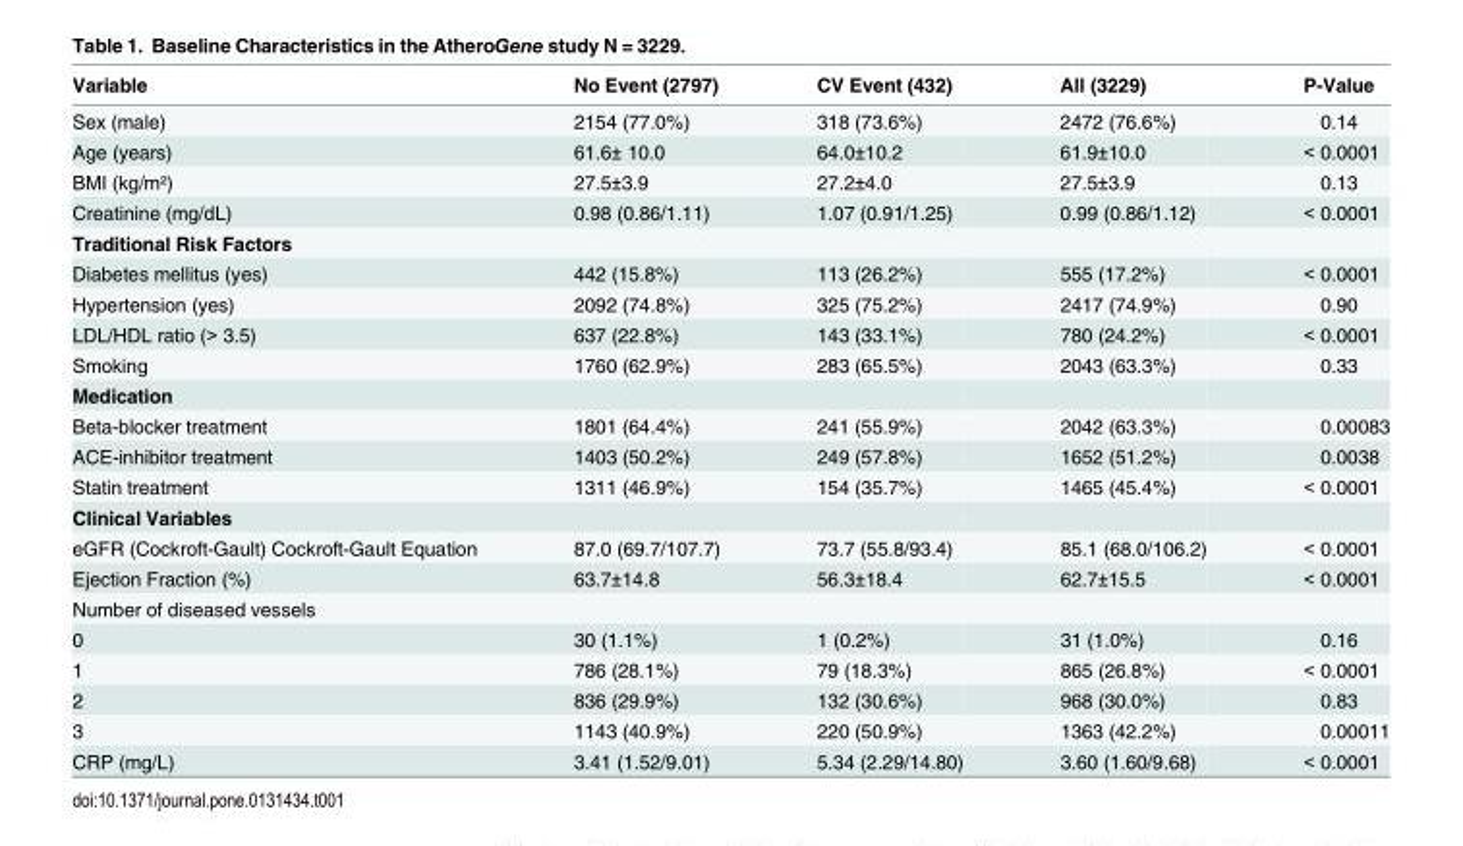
<table><thead><tr><td>Variable</td><td>No Event (2797)</td><td>CV Event (432)</td><td>All (3229)</td><td>P-Value</td></tr></thead><tbody><tr><td>Sex (male)</td><td>2154 (77.0%)</td><td>318 (73.6%)</td><td>2472 (76.6%)</td><td>0.14</td></tr><tr><td>Age (years)</td><td>61.6± 10.0</td><td>64.0±10.2</td><td>61.9±10.0</td><td>&lt; 0.0001</td></tr><tr><td>BMI (kg/m²)</td><td>27.5±3.9</td><td>27.2±4.0</td><td>27.5±3.9</td><td>0.13</td></tr><tr><td>Creatinine (mg/dL)</td><td>0.98 (0.86/1.11)</td><td>1.07 (0.91/1.25)</td><td>0.99 (0.86/1.12)</td><td>&lt; 0.0001</td></tr><tr><td colspan="5">Traditional Risk Factors</td></tr><tr><td>Diabetes mellitus (yes)</td><td>442 (15.8%)</td><td>113 (26.2%)</td><td>555 (17.2%)</td><td>&lt; 0.0001</td></tr><tr><td>Hypertension (yes)</td><td>2092 (74.8%)</td><td>325 (75.2%)</td><td>2417 (74.9%)</td><td>0.90</td></tr><tr><td>LDL/HDL ratio (&gt; 3.5)</td><td>637 (22.8%)</td><td>143 (33.1%)</td><td>780 (24.2%)</td><td>&lt; 0.0001</td></tr><tr><td>Smoking</td><td>1760 (62.9%)</td><td>283 (65.5%)</td><td>2043 (63.3%)</td><td>0.33</td></tr><tr><td colspan="5">Medication</td></tr><tr><td>Beta-blocker treatment</td><td>1801 (64.4%)</td><td>241 (55.9%)</td><td>2042 (63.3%)</td><td>0.00083</td></tr><tr><td>ACE-inhibitor treatment</td><td>1403 (50.2%)</td><td>249 (57.8%)</td><td>1652 (51.2%)</td><td>0.0038</td></tr><tr><td>Statin treatment</td><td>1311 (46.9%)</td><td>154 (35.7%)</td><td>1465 (45.4%)</td><td>&lt; 0.0001</td></tr><tr><td colspan="5">Clinical Variables</td></tr><tr><td>eGFR (Cockroft-Gault) Cockroft-Gault Equation</td><td>87.0 (69.7/107.7)</td><td>73.7 (55.8/93.4)</td><td>85.1 (68.0/106.2)</td><td>&lt; 0.0001</td></tr><tr><td>Ejection Fraction (%)</td><td>63.7±14.8</td><td>56.3±18.4</td><td>62.7±15.5</td><td>&lt; 0.0001</td></tr><tr><td colspan="5">Number of diseased vessels</td></tr><tr><td>0</td><td>30 (1.1%)</td><td>1 (0.2%)</td><td>31 (1.0%)</td><td>0.16</td></tr><tr><td>1</td><td>786 (28.1%)</td><td>79 (18.3%)</td><td>865 (26.8%)</td><td>&lt; 0.0001</td></tr><tr><td>2</td><td>836 (29.9%)</td><td>132 (30.6%)</td><td>968 (30.0%)</td><td>0.83</td></tr><tr><td>3</td><td>1143 (40.9%)</td><td>220 (50.9%)</td><td>1363 (42.2%)</td><td>0.00011</td></tr><tr><td>CRP (mg/L)</td><td>3.41 (1.52/9.01)</td><td>5.34 (2.29/14.80)</td><td>3.60 (1.60/9.68)</td><td>&lt; 0.0001</td></tr></tbody></table>